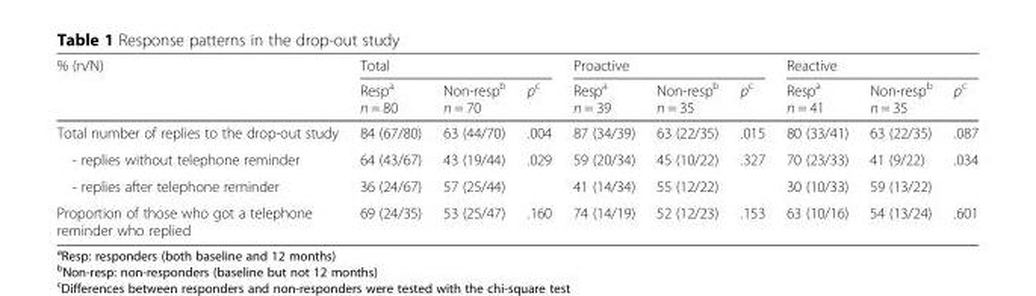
<table><thead><tr><td rowspan="2">% (n/N)</td><td colspan="3">Total</td><td colspan="3">Proactive</td><td colspan="3">Reactive</td></tr><tr><td>Resp<sup>a</sup> n = 80</td><td>Non-resp<sup>b</sup> n = 70</td><td>p<sup>c</sup></td><td>Resp<sup>a</sup> n = 39</td><td>Non-resp<sup>b</sup> n = 35</td><td>p<sup>c</sup></td><td>Resp<sup>a</sup> n = 41</td><td>Non-resp<sup>b</sup> n = 35</td><td>p<sup>c</sup></td></tr></thead><tbody><tr><td>Total number of replies to the drop-out study</td><td>84 (67/80)</td><td>63 (44/70)</td><td>.004</td><td>87 (34/39)</td><td>63 (22/35)</td><td>.015</td><td>80 (33/41)</td><td>63 (22/35)</td><td>.087</td></tr><tr><td>- replies without telephone reminder</td><td>64 (43/67)</td><td>43 (19/44)</td><td rowspan="2">.029</td><td>59 (20/34)</td><td>45 (10/22)</td><td rowspan="2">.327</td><td>70 (23/33)</td><td>41 (9/22)</td><td rowspan="2">.034</td></tr><tr><td>- replies after telephone reminder</td><td>36 (24/67)</td><td>57 (25/44)</td><td>41 (14/34)</td><td>55 (12/22)</td><td>30 (10/33)</td><td>59 (13/22)</td></tr><tr><td>Proportion of those who got a telephone reminder who replied</td><td>69 (24/35)</td><td>53 (25/47)</td><td>.160</td><td>74 (14/19)</td><td>52 (12/23)</td><td>.153</td><td>63 (10/16)</td><td>54 (13/24)</td><td>.601</td></tr></tbody></table>